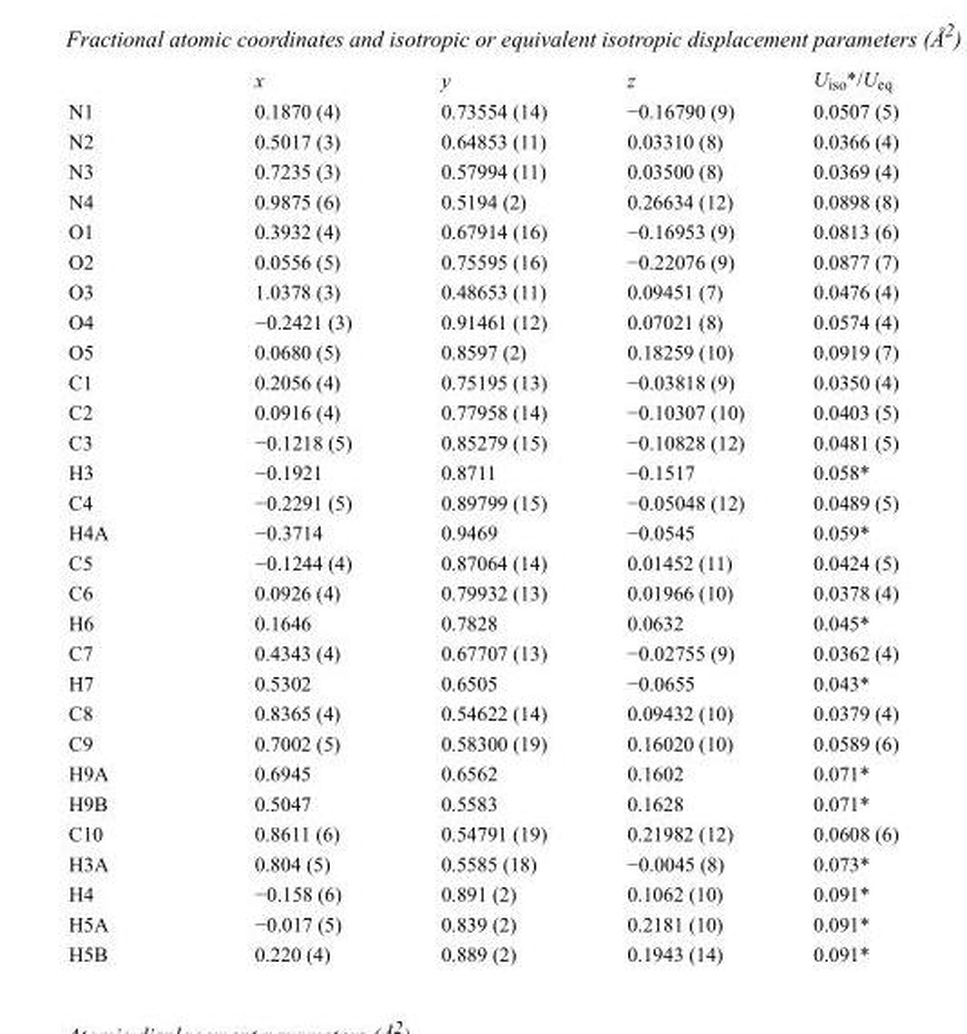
<table><thead><tr><td></td><td>x</td><td>y</td><td>z</td><td>U<sub>iso</sub>*/U<sub>eq</sub></td></tr></thead><tbody><tr><td>N1</td><td>0.1870 (4)</td><td>0.73554 (14)</td><td>−0.16790 (9)</td><td>0.0507 (5)</td></tr><tr><td>N2</td><td>0.5017 (3)</td><td>0.64853 (11)</td><td>0.03310 (8)</td><td>0.0366 (4)</td></tr><tr><td>N3</td><td>0.7235 (3)</td><td>0.57994 (11)</td><td>0.03500 (8)</td><td>0.0369 (4)</td></tr><tr><td>N4</td><td>0.9875 (6)</td><td>0.5194 (2)</td><td>0.26634 (12)</td><td>0.0898 (8)</td></tr><tr><td>O1</td><td>0.3932 (4)</td><td>0.67914 (16)</td><td>−0.16953 (9)</td><td>0.0813 (6)</td></tr><tr><td>O2</td><td>0.0556 (5)</td><td>0.75595 (16)</td><td>−0.22076 (9)</td><td>0.0877 (7)</td></tr><tr><td>O3</td><td>1.0378 (3)</td><td>0.48653 (11)</td><td>0.09451 (7)</td><td>0.0476 (4)</td></tr><tr><td>O4</td><td>−0.2421 (3)</td><td>0.91461 (12)</td><td>0.07021 (8)</td><td>0.0574 (4)</td></tr><tr><td>O5</td><td>0.0680 (5)</td><td>0.8597 (2)</td><td>0.18259 (10)</td><td>0.0919 (7)</td></tr><tr><td>C1</td><td>0.2056 (4)</td><td>0.75195 (13)</td><td>−0.03818 (9)</td><td>0.0350 (4)</td></tr><tr><td>C2</td><td>0.0916 (4)</td><td>0.77958 (14)</td><td>−0.10307 (10)</td><td>0.0403 (5)</td></tr><tr><td>C3</td><td>−0.1218 (5)</td><td>0.85279 (15)</td><td>−0.10828 (12)</td><td>0.0481 (5)</td></tr><tr><td>H3</td><td>−0.1921</td><td>0.8711</td><td>−0.1517</td><td>0.058*</td></tr><tr><td>C4</td><td>−0.2291 (5)</td><td>0.89799 (15)</td><td>−0.05048 (12)</td><td>0.0489 (5)</td></tr><tr><td>H4A</td><td>−0.3714</td><td>0.9469</td><td>−0.0545</td><td>0.059*</td></tr><tr><td>C5</td><td>−0.1244 (4)</td><td>0.87064 (14)</td><td>0.01452 (11)</td><td>0.0424 (5)</td></tr><tr><td>C6</td><td>0.0926 (4)</td><td>0.79932 (13)</td><td>0.01966 (10)</td><td>0.0378 (4)</td></tr><tr><td>H6</td><td>0.1646</td><td>0.7828</td><td>0.0632</td><td>0.045*</td></tr><tr><td>C7</td><td>0.4343 (4)</td><td>0.67707 (13)</td><td>−0.02755 (9)</td><td>0.0362 (4)</td></tr><tr><td>H7</td><td>0.5302</td><td>0.6505</td><td>−0.0655</td><td>0.043*</td></tr><tr><td>C8</td><td>0.8365 (4)</td><td>0.54622 (14)</td><td>0.09432 (10)</td><td>0.0379 (4)</td></tr><tr><td>C9</td><td>0.7002 (5)</td><td>0.58300 (19)</td><td>0.16020 (10)</td><td>0.0589 (6)</td></tr><tr><td>H9A</td><td>0.6945</td><td>0.6562</td><td>0.1602</td><td>0.071*</td></tr><tr><td>H9B</td><td>0.5047</td><td>0.5583</td><td>0.1628</td><td>0.071*</td></tr><tr><td>C10</td><td>0.8611 (6)</td><td>0.54791 (19)</td><td>0.21982 (12)</td><td>0.0608 (6)</td></tr><tr><td>H3A</td><td>0.804 (5)</td><td>0.5585 (18)</td><td>−0.0045 (8)</td><td>0.073*</td></tr><tr><td>H4</td><td>−0.158 (6)</td><td>0.891 (2)</td><td>0.1062 (10)</td><td>0.091*</td></tr><tr><td>H5A</td><td>−0.017 (5)</td><td>0.839 (2)</td><td>0.2181 (10)</td><td>0.091*</td></tr><tr><td>H5B</td><td>0.220 (4)</td><td>0.889 (2)</td><td>0.1943 (14)</td><td>0.091*</td></tr></tbody></table>